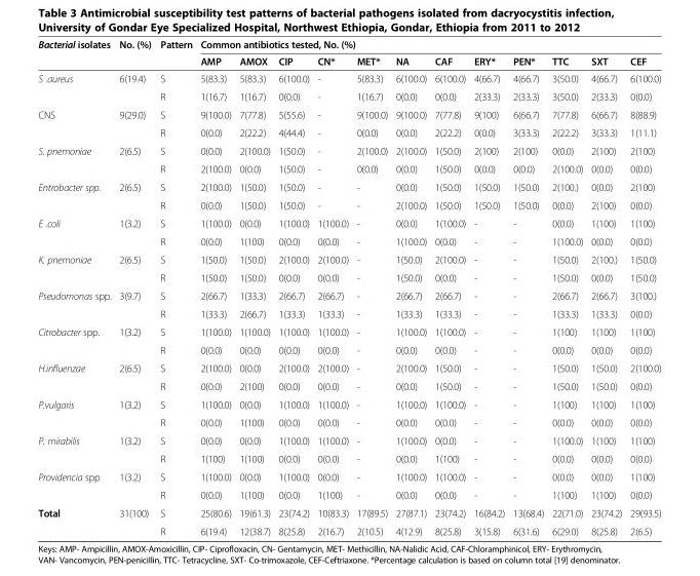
<table><thead><tr><td rowspan="2">Bacterial isolates</td><td rowspan="2">No. (%)</td><td rowspan="2">Pattern</td><td colspan="12">Common antibiotics tested, No. (%)</td></tr><tr><td>AMP</td><td>AMOX</td><td>CIP</td><td>CN*</td><td>MET*</td><td>NA</td><td>CAF</td><td>ERY*</td><td>PEN*</td><td>TTC</td><td>SXT</td><td>CEF</td></tr></thead><tbody><tr><td rowspan="2">S .aureus</td><td rowspan="2">6(19.4)</td><td>S</td><td>5(83.3)</td><td>5(83.3)</td><td>6(100.0)</td><td>-</td><td>5(83.3)</td><td>6(100.0)</td><td>6(100.0)</td><td>4(66.7)</td><td>4(66.7)</td><td>3(50.0)</td><td>4(66.7)</td><td>6(100.0)</td></tr><tr><td>R</td><td>1(16.7)</td><td>1(16.7)</td><td>0(0.0)</td><td>-</td><td>1(16.7)</td><td>0(0.0)</td><td>0(0.0)</td><td>2(33.3)</td><td>2(33.3)</td><td>3(50.0)</td><td>2(33.3)</td><td>0(0.0)</td></tr><tr><td rowspan="2">CNS</td><td rowspan="2">9(29.0)</td><td>S</td><td>9(100.0)</td><td>7(77.8)</td><td>5(55.6)</td><td>-</td><td>9(100.0)</td><td>9(100.0)</td><td>7(77.8)</td><td>9(100)</td><td>6(66.7)</td><td>7(77.8)</td><td>6(66.7)</td><td>8(88.9)</td></tr><tr><td>R</td><td>0(0.0)</td><td>2(22.2)</td><td>4(44.4)</td><td>-</td><td>0(0.0)</td><td>0(0.0)</td><td>2(22.2)</td><td>0(0.0)</td><td>3(33.3)</td><td>2(22.2)</td><td>3(33.3)</td><td>1(11.1)</td></tr><tr><td rowspan="2">S. pnemoniae</td><td rowspan="2">2(6.5)</td><td>S</td><td>0(0.0)</td><td>2(100.0)</td><td>1(50.0)</td><td>-</td><td>2(100.0)</td><td>2(100.0)</td><td>1(50.0)</td><td>2(100)</td><td>2(100)</td><td>0(0.0)</td><td>2(100)</td><td>2(100)</td></tr><tr><td>R</td><td>2(100.0)</td><td>0(0.0)</td><td>1(50.0)</td><td>-</td><td>0(0.0)</td><td>0(0.0)</td><td>1(50.0)</td><td>0(0.0)</td><td>0(0.0)</td><td>2(100.0)</td><td>0(0.0)</td><td>0(0.0)</td></tr><tr><td rowspan="2">Entrobacter spp.</td><td rowspan="2">2(6.5)</td><td>S</td><td>2(100.0)</td><td>1(50.0)</td><td>1(50.0)</td><td>-</td><td>-</td><td>0(0.0)</td><td>1(50.0)</td><td>1(50.0)</td><td>1(50.0)</td><td>2(100.)</td><td>0(0.0)</td><td>2(100)</td></tr><tr><td>R</td><td>0(0.0)</td><td>1(50.0)</td><td>1(50.0)</td><td>-</td><td>-</td><td>2(100.0)</td><td>1(50.0)</td><td>1(50.0)</td><td>1(50.0)</td><td>0(0.0)</td><td>2(100)</td><td>0(0.0)</td></tr><tr><td rowspan="2">E .coli</td><td rowspan="2">1(3.2)</td><td>S</td><td>1(100.0)</td><td>0(0.0)</td><td>1(100.0)</td><td>1(100.0)</td><td>-</td><td>0(0.0)</td><td>1(100.0)</td><td>-</td><td>-</td><td>0(0.0)</td><td>1(100)</td><td>1(100)</td></tr><tr><td>R</td><td>0(0.0)</td><td>1(100)</td><td>0(0.0)</td><td>0(0.0)</td><td>-</td><td>1(100.0)</td><td>0(0.0)</td><td>-</td><td>-</td><td>1(100.0)</td><td>0(0.0)</td><td>0(0.0)</td></tr><tr><td rowspan="2">K. pnemoniae</td><td rowspan="2">2(6.5)</td><td>S</td><td>1(50.0)</td><td>1(50.0)</td><td>2(100.0)</td><td>2(100.0)</td><td>-</td><td>1(50.0)</td><td>2(100.0)</td><td>-</td><td>-</td><td>1(50.0)</td><td>2(100.)</td><td>1(50.0)</td></tr><tr><td>R</td><td>1(50.0)</td><td>1(50.0)</td><td>0(0.0)</td><td>0(0.0)</td><td>-</td><td>1(50.0)</td><td>0(0.0)</td><td>-</td><td>-</td><td>1(50.0)</td><td>0(0.0)</td><td>1(50.0)</td></tr><tr><td rowspan="2">Pseudomonas spp.</td><td rowspan="2">3(9.7)</td><td>S</td><td>2(66.7)</td><td>1(33.3)</td><td>2(66.7)</td><td>2(66.7)</td><td>-</td><td>2(66.7)</td><td>2(66.7)</td><td>-</td><td>-</td><td>2(66.7)</td><td>2(66.7)</td><td>3(100.)</td></tr><tr><td>R</td><td>1(33.3)</td><td>2(66.7)</td><td>1(33.3)</td><td>1(33.3)</td><td>-</td><td>1(33.3)</td><td>1(33.3)</td><td>-</td><td>-</td><td>1(33.3)</td><td>1(33.3)</td><td>0(0.0)</td></tr><tr><td rowspan="2">Citrobacter spp.</td><td rowspan="2">1(3.2)</td><td>S</td><td>1(100.0)</td><td>1(100.0)</td><td>1(100.0)</td><td>1(100.0)</td><td>-</td><td>1(100.0)</td><td>1(100.0)</td><td>-</td><td>-</td><td>1(100)</td><td>1(100)</td><td>1(100)</td></tr><tr><td>R</td><td>0(0.0)</td><td>0(0.0)</td><td>0(0.0)</td><td>0(0.0)</td><td>-</td><td>0(0.0)</td><td>0(0.0)</td><td>-</td><td>-</td><td>0(0.0)</td><td>0(0.0)</td><td>0(0.0)</td></tr><tr><td rowspan="2">H.influenzae</td><td rowspan="2">2(6.5)</td><td>S</td><td>2(100.0)</td><td>0(0.0)</td><td>2(100.0)</td><td>2(100.0)</td><td>-</td><td>2(100.0)</td><td>1(50.0)</td><td>-</td><td>-</td><td>1(50.0)</td><td>1(50.0)</td><td>2(100.0)</td></tr><tr><td>R</td><td>0(0.0)</td><td>2(100)</td><td>0(0.0)</td><td>0(0.0)</td><td>-</td><td>0(0.0)</td><td>1(50.0)</td><td>-</td><td>-</td><td>1(50.0)</td><td>1(50.0)</td><td>0(0.0)</td></tr><tr><td rowspan="2">P.vulgaris</td><td rowspan="2">1(3.2)</td><td>S</td><td>1(100.0)</td><td>0(0.0)</td><td>1(100.0)</td><td>1(100.0)</td><td>-</td><td>1(100.0)</td><td>1(100.0)</td><td>-</td><td>-</td><td>1(100)</td><td>1(100)</td><td>1(100)</td></tr><tr><td>R</td><td>0(0.0)</td><td>1(100)</td><td>0(0.0)</td><td>0(0.0)</td><td>-</td><td>0(0.0)</td><td>0(0.0)</td><td>-</td><td>-</td><td>0(0.0)</td><td>0(0.0)</td><td>0(0.0)</td></tr><tr><td rowspan="2">P. mirabilis</td><td rowspan="2">1(3.2)</td><td>S</td><td>0(0.0)</td><td>0(0.0)</td><td>1(100.0)</td><td>1(100.0)</td><td>-</td><td>1(100.0)</td><td>0(0.0)</td><td>-</td><td>-</td><td>1(100.0)</td><td>1(100)</td><td>1(100)</td></tr><tr><td>R</td><td>1(100)</td><td>1(100)</td><td>0(0.0)</td><td>0(0.0)</td><td>-</td><td>0(0.0)</td><td>1(100)</td><td>-</td><td>-</td><td>0(0.0)</td><td>0(0.0)</td><td>0(0.0)</td></tr><tr><td rowspan="2">Providencia spp</td><td rowspan="2">1(3.2)</td><td>S</td><td>1(100.0)</td><td>0(0.0)</td><td>1(100.0)</td><td>0(0.0)</td><td>-</td><td>1(100.0)</td><td>1(100.0)</td><td>-</td><td>-</td><td>0(0.0)</td><td>0(0.0)</td><td>1(100)</td></tr><tr><td>R</td><td>0(0.0)</td><td>1(100)</td><td>0(0.0)</td><td>1(100)</td><td>-</td><td>0(0.0)</td><td>0(0.0)</td><td>-</td><td>-</td><td>1(100)</td><td>1(100)</td><td>0(0.0)</td></tr><tr><td rowspan="2">Total</td><td rowspan="2">31(100)</td><td>S</td><td>25(80.6)</td><td>19(61.3)</td><td>23(74.2)</td><td>10(83.3)</td><td>17(89.5)</td><td>27(87.1)</td><td>23(74.2)</td><td>16(84.2)</td><td>13(68.4)</td><td>22(71.0)</td><td>23(74.2)</td><td>29(93.5)</td></tr><tr><td>R</td><td>6(19.4)</td><td>12(38.7)</td><td>8(25.8)</td><td>2(16.7)</td><td>2(10.5)</td><td>4(12.9)</td><td>8(25.8)</td><td>3(15.8)</td><td>6(31.6)</td><td>6(29.0)</td><td>8(25.8)</td><td>2(6.5)</td></tr></tbody></table>